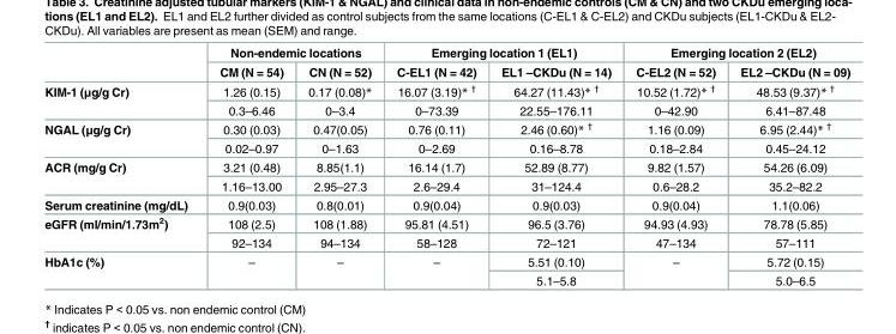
<table><thead><tr><td rowspan="2"></td><td colspan="2">Non-endemic locations</td><td colspan="2">Emerging location 1 (EL1)</td><td colspan="2">Emerging location 2 (EL2)</td></tr><tr><td>CM (N = 54)</td><td>CN (N = 52)</td><td>C-EL1 (N = 42)</td><td>EL1 –CKDu (N = 14)</td><td>C-EL2 (N = 52)</td><td>EL2 –CKDu (N = 09)</td></tr></thead><tbody><tr><td rowspan="2">KIM-1 (μg/g Cr)</td><td>1.26 (0.15)</td><td>0.17 (0.08)*</td><td>16.07 (3.19)* <sup>†</sup></td><td>64.27 (11.43)* <sup>†</sup></td><td>10.52 (1.72)* <sup>†</sup></td><td>48.53 (9.37)* <sup>†</sup></td></tr><tr><td>0.3–6.46</td><td>0–3.4</td><td>0–73.39</td><td>22.55–176.11</td><td>0–42.90</td><td>6.41–87.48</td></tr><tr><td rowspan="2">NGAL (μg/g Cr)</td><td>0.30 (0.03)</td><td>0.47(0.05)</td><td>0.76 (0.11)</td><td>2.46 (0.60)* <sup>†</sup></td><td>1.16 (0.09)</td><td>6.95 (2.44)* <sup>†</sup></td></tr><tr><td>0.02–0.97</td><td>0–1.63</td><td>0–2.69</td><td>0.16–8.78</td><td>0.18–2.84</td><td>0.45–24.12</td></tr><tr><td rowspan="2">ACR (mg/g Cr)</td><td>3.21 (0.48)</td><td>8.85(1.1)</td><td>16.14 (1.7)</td><td>52.89 (8.77)</td><td>9.82 (1.57)</td><td>54.26 (6.09)</td></tr><tr><td>1.16–13.00</td><td>2.95–27.3</td><td>2.6–29.4</td><td>31–124.4</td><td>0.6–28.2</td><td>35.2–82.2</td></tr><tr><td>Serum creatinine (mg/dL)</td><td>0.9(0.03)</td><td>0.8(0.01)</td><td>0.9(0.04)</td><td>0.9(0.03)</td><td>0.9(0.04)</td><td>1.1(0.06)</td></tr><tr><td rowspan="2">eGFR (ml/min/1.73m<sup>2</sup>)</td><td>108 (2.5)</td><td>108 (1.88)</td><td>95.81 (4.51)</td><td>96.5 (3.76)</td><td>94.93 (4.93)</td><td>78.78 (5.85)</td></tr><tr><td>92–134</td><td>94–134</td><td>58–128</td><td>72–121</td><td>47–134</td><td>57–111</td></tr><tr><td rowspan="2">HbA1c (%)</td><td rowspan="2">–</td><td rowspan="2">–</td><td rowspan="2">–</td><td>5.51 (0.10)</td><td rowspan="2">–</td><td>5.72 (0.15)</td></tr><tr><td>5.1–5.8</td><td>5.0–6.5</td></tr></tbody></table>